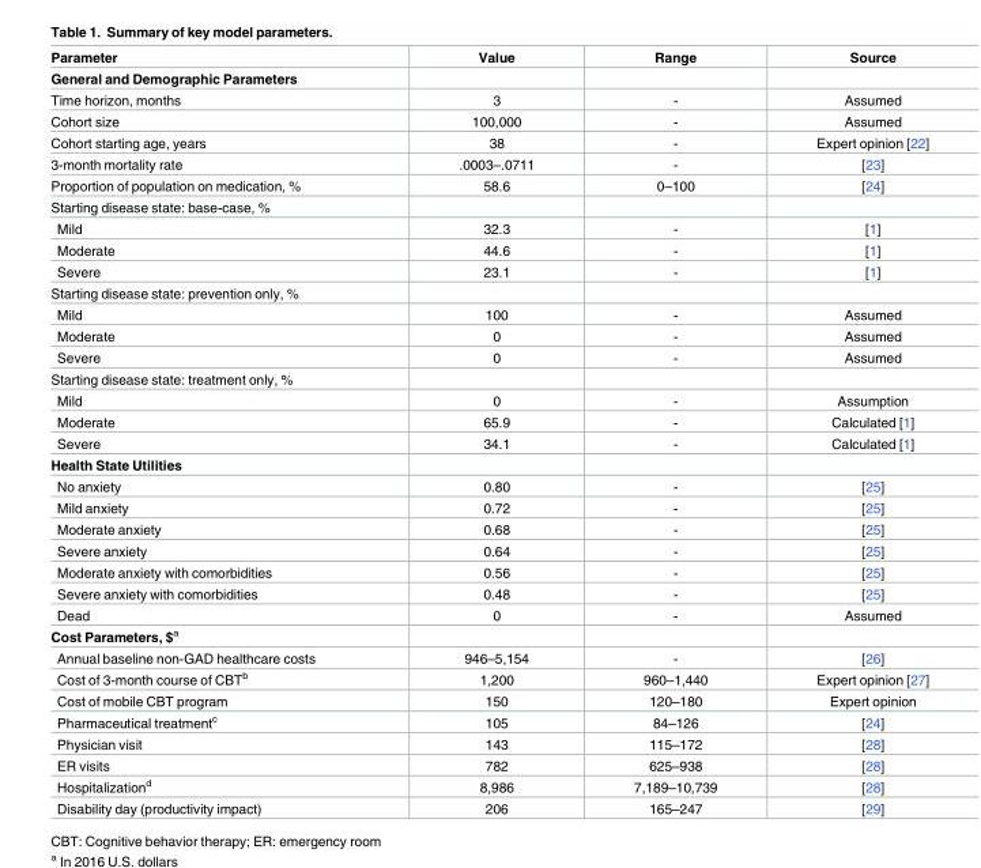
<table><thead><tr><td>Parameter</td><td>Value</td><td>Range</td><td>Source</td></tr></thead><tbody><tr><td colspan="4">General and Demographic Parameters</td></tr><tr><td>Time horizon, months</td><td>3</td><td>-</td><td>Assumed</td></tr><tr><td>Cohort size</td><td>100,000</td><td>-</td><td>Assumed</td></tr><tr><td>Cohort starting age, years</td><td>38</td><td>-</td><td>Expert opinion [22]</td></tr><tr><td>3-month mortality rate</td><td>.0003–.0711</td><td>-</td><td>[23]</td></tr><tr><td>Proportion of population on medication, %</td><td>58.6</td><td>0–100</td><td>[24]</td></tr><tr><td colspan="4">Starting disease state: base-case, %</td></tr><tr><td>Mild</td><td>32.3</td><td>-</td><td>[1]</td></tr><tr><td>Moderate</td><td>44.6</td><td>-</td><td>[1]</td></tr><tr><td>Severe</td><td>23.1</td><td>-</td><td>[1]</td></tr><tr><td colspan="4">Starting disease state: prevention only, %</td></tr><tr><td>Mild</td><td>100</td><td>-</td><td>Assumed</td></tr><tr><td>Moderate</td><td>0</td><td>-</td><td>Assumed</td></tr><tr><td>Severe</td><td>0</td><td>-</td><td>Assumed</td></tr><tr><td colspan="4">Starting disease state: treatment only, %</td></tr><tr><td>Mild</td><td>0</td><td>-</td><td>Assumption</td></tr><tr><td>Moderate</td><td>65.9</td><td>-</td><td>Calculated [1]</td></tr><tr><td>Severe</td><td>34.1</td><td>-</td><td>Calculated [1]</td></tr><tr><td colspan="4">Health State Utilities</td></tr><tr><td>No anxiety</td><td>0.80</td><td>-</td><td>[25]</td></tr><tr><td>Mild anxiety</td><td>0.72</td><td>-</td><td>[25]</td></tr><tr><td>Moderate anxiety</td><td>0.68</td><td>-</td><td>[25]</td></tr><tr><td>Severe anxiety</td><td>0.64</td><td>-</td><td>[25]</td></tr><tr><td>Moderate anxiety with comorbidities</td><td>0.56</td><td>-</td><td>[25]</td></tr><tr><td>Severe anxiety with comorbidities</td><td>0.48</td><td>-</td><td>[25]</td></tr><tr><td>Dead</td><td>0</td><td>-</td><td>Assumed</td></tr><tr><td colspan="4">Cost Parameters, $<sup>a</sup></td></tr><tr><td>Annual baseline non-GAD healthcare costs</td><td>946–5,154</td><td>-</td><td>[26]</td></tr><tr><td>Cost of 3-month course of CBT<sup>b</sup></td><td>1,200</td><td>960–1,440</td><td>Expert opinion [27]</td></tr><tr><td>Cost of mobile CBT program</td><td>150</td><td>120–180</td><td>Expert opinion</td></tr><tr><td>Pharmaceutical treatment<sup>c</sup></td><td>105</td><td>84–126</td><td>[24]</td></tr><tr><td>Physician visit</td><td>143</td><td>115–172</td><td>[28]</td></tr><tr><td>ER visits</td><td>782</td><td>625–938</td><td>[28]</td></tr><tr><td>Hospitalization<sup>d</sup></td><td>8,986</td><td>7,189–10,739</td><td>[28]</td></tr><tr><td>Disability day (productivity impact)</td><td>206</td><td>165–247</td><td>[29]</td></tr></tbody></table>